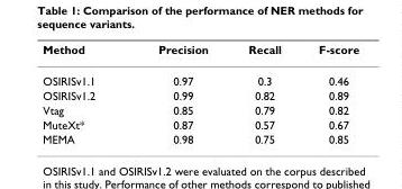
<table><thead><tr><td>Method</td><td>Precision</td><td>Recall</td><td>F-score</td></tr></thead><tbody><tr><td>OSIRISv1.1</td><td>0.97</td><td>0.3</td><td>0.46</td></tr><tr><td>OSIRISv1.2</td><td>0.99</td><td>0.82</td><td>0.89</td></tr><tr><td>Vtag</td><td>0.85</td><td>0.79</td><td>0.82</td></tr><tr><td>MuteXt*</td><td>0.87</td><td>0.57</td><td>0.67</td></tr><tr><td>MEMA</td><td>0.98</td><td>0.75</td><td>0.85</td></tr></tbody></table>